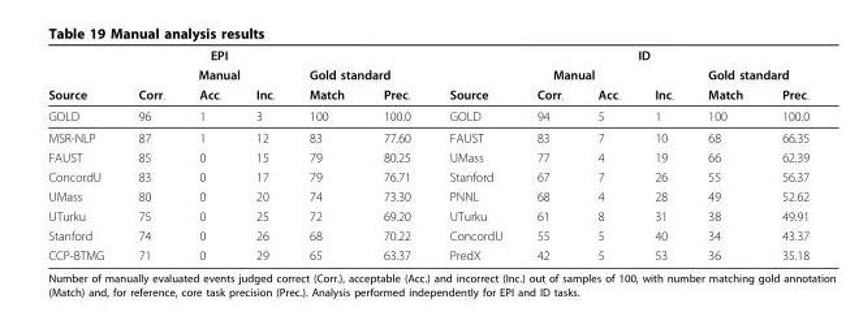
<table><thead><tr><td rowspan="3">Source</td><td rowspan="2" colspan="3">EPI Manual</td><td></td><td></td><td colspan="6">ID</td></tr><tr><td colspan="2">Gold standard</td><td colspan="4">Manual</td><td colspan="2">Gold standard</td></tr><tr><td>Corr.</td><td>Acc.</td><td>Inc.</td><td>Match</td><td>Prec.</td><td>Source</td><td>Corr.</td><td>Acc.</td><td>Inc.</td><td>Match</td><td>Prec.</td></tr></thead><tbody><tr><td>GOLD</td><td>96</td><td>1</td><td>3</td><td>100</td><td>100.0</td><td>GOLD</td><td>94</td><td>5</td><td>1</td><td>100</td><td>100.0</td></tr><tr><td>MSR-NLP</td><td>87</td><td>1</td><td>12</td><td>83</td><td>77.60</td><td>FAUST</td><td>83</td><td>7</td><td>10</td><td>68</td><td>66.35</td></tr><tr><td>FAUST</td><td>85</td><td>0</td><td>15</td><td>79</td><td>80.25</td><td>UMass</td><td>77</td><td>4</td><td>19</td><td>66</td><td>62.39</td></tr><tr><td>ConcordU</td><td>83</td><td>0</td><td>17</td><td>79</td><td>76.71</td><td>Stanford</td><td>67</td><td>7</td><td>26</td><td>55</td><td>56.37</td></tr><tr><td>UMass</td><td>80</td><td>0</td><td>20</td><td>74</td><td>73.30</td><td>PNNL</td><td>68</td><td>4</td><td>28</td><td>49</td><td>52.62</td></tr><tr><td>UTurku</td><td>75</td><td>0</td><td>25</td><td>72</td><td>69.20</td><td>UTurku</td><td>61</td><td>8</td><td>31</td><td>38</td><td>49.91</td></tr><tr><td>Stanford</td><td>74</td><td>0</td><td>26</td><td>68</td><td>70.22</td><td>ConcordU</td><td>55</td><td>5</td><td>40</td><td>34</td><td>43.37</td></tr><tr><td>CCP-BTMG</td><td>71</td><td>0</td><td>29</td><td>65</td><td>63.37</td><td>PredX</td><td>42</td><td>5</td><td>53</td><td>36</td><td>35.18</td></tr></tbody></table>